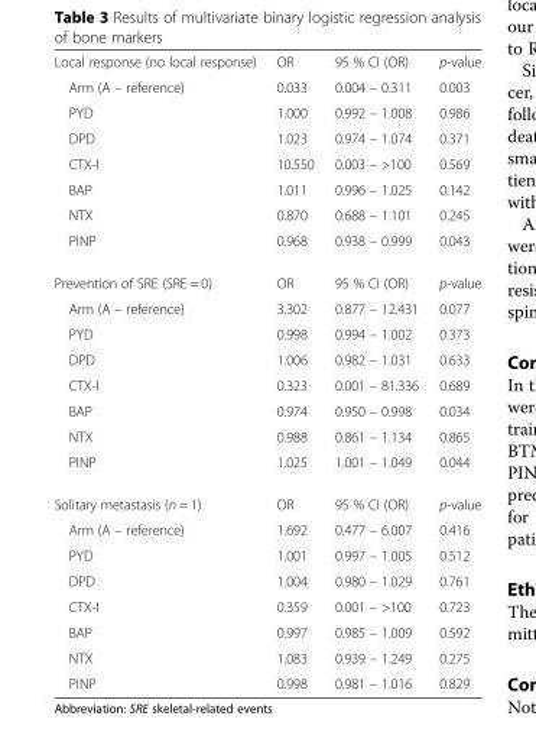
<table><tbody><tr><td>Local response (no local response)</td><td>OR</td><td>95 % CI (OR)</td><td>p-value</td></tr><tr><td>Arm (A – reference)</td><td>0.033</td><td>0.004 – 0.311</td><td>0.003</td></tr><tr><td>PYD</td><td>1.000</td><td>0.992 – 1.008</td><td>0.986</td></tr><tr><td>DPD</td><td>1.023</td><td>0.974 – 1.074</td><td>0.371</td></tr><tr><td>CTX-I</td><td>10.550</td><td>0.003 – &gt;100</td><td>0.569</td></tr><tr><td>BAP</td><td>1.011</td><td>0.996 – 1.025</td><td>0.142</td></tr><tr><td>NTX</td><td>0.870</td><td>0.688 – 1.101</td><td>0.245</td></tr><tr><td>PINP</td><td>0.968</td><td>0.938 – 0.999</td><td>0.043</td></tr><tr><td>Prevention of SRE (SRE = 0)</td><td>OR</td><td>95 % CI (OR)</td><td>p-value</td></tr><tr><td>Arm (A – reference)</td><td>3.302</td><td>0.877 – 12.431</td><td>0.077</td></tr><tr><td>PYD</td><td>0.998</td><td>0.994 – 1.002</td><td>0.373</td></tr><tr><td>DPD</td><td>1.006</td><td>0.982 – 1.031</td><td>0.633</td></tr><tr><td>CTX-I</td><td>0.323</td><td>0.001 – 81.336</td><td>0.689</td></tr><tr><td>BAP</td><td>0.974</td><td>0.950 – 0.998</td><td>0.034</td></tr><tr><td>NTX</td><td>0.988</td><td>0.861 – 1.134</td><td>0.865</td></tr><tr><td>PINP</td><td>1.025</td><td>1.001 – 1.049</td><td>0.044</td></tr><tr><td>Solitary metastasis (n = 1)</td><td>OR</td><td>95 % CI (OR)</td><td>p-value</td></tr><tr><td>Arm (A – reference)</td><td>1.692</td><td>0.477 – 6.007</td><td>0.416</td></tr><tr><td>PYD</td><td>1.001</td><td>0.997 – 1.005</td><td>0.512</td></tr><tr><td>DPD</td><td>1.004</td><td>0.980 – 1.029</td><td>0.761</td></tr><tr><td>CTX-I</td><td>0.359</td><td>0.001 – &gt;100</td><td>0.723</td></tr><tr><td>BAP</td><td>0.997</td><td>0.985 – 1.009</td><td>0.592</td></tr><tr><td>NTX</td><td>1.083</td><td>0.939 – 1.249</td><td>0.275</td></tr><tr><td>PINP</td><td>0.998</td><td>0.981 – 1.016</td><td>0.829</td></tr></tbody></table>